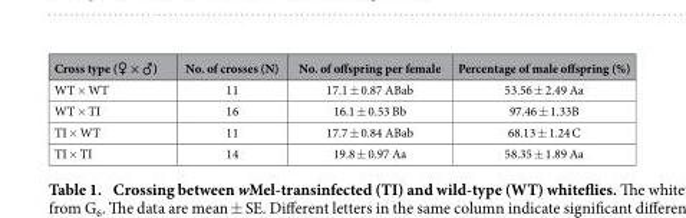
<table><thead><tr><td>Cross type (♀ × ♂)</td><td>No. of crosses (N)</td><td>No. of offspring per female</td><td>Percentage of male offspring (%)</td></tr></thead><tbody><tr><td>WT × WT</td><td>11</td><td>17.1 ± 0.87 ABab</td><td>53.56 ± 2.49 Aa</td></tr><tr><td>WT × TI</td><td>16</td><td>16.1 ± 0.53 Bb</td><td>97.46 ± 1.33B</td></tr><tr><td>TI × WT</td><td>11</td><td>17.7 ± 0.84 ABab</td><td>68.13 ± 1.24 C</td></tr><tr><td>TI × TI</td><td>14</td><td>19.8 ± 0.97 Aa</td><td>58.35 ± 1.89 Aa</td></tr></tbody></table>